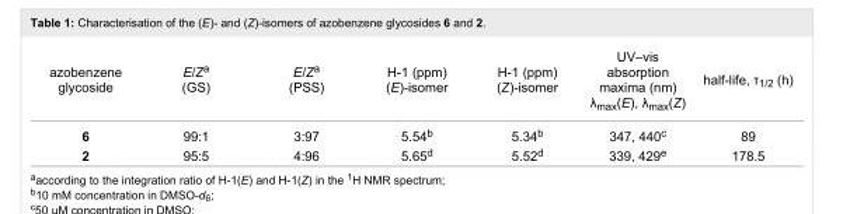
<table><tbody><tr><td>azobenzene glycoside</td><td>E/Z<sup>a</sup> (GS)</td><td>E/Z<sup>a</sup> (PSS)</td><td>H-1 (ppm) (E)-isomer</td><td>H-1 (ppm) (Z)-isomer</td><td>UV–vis absorption maxima (nm) λ<sub>max</sub>(E), λ<sub>max</sub>(Z)</td><td>half-life, τ<sub>1/2</sub> (h)</td></tr><tr><td>6</td><td>99:1</td><td>3:97</td><td>5.54<sup>b</sup></td><td>5.34<sup>b</sup></td><td>347, 440<sup>c</sup></td><td>89</td></tr><tr><td>2</td><td>95:5</td><td>4:96</td><td>5.65<sup>d</sup></td><td>5.52<sup>d</sup></td><td>339, 429<sup>e</sup></td><td>178.5</td></tr></tbody></table>